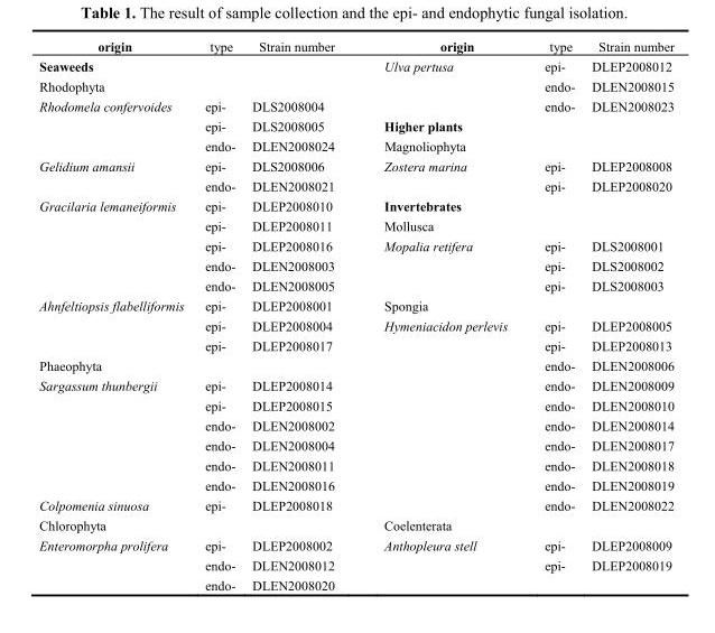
<table><thead><tr><td>origin</td><td>type</td><td>Strain number</td><td>origin</td><td>type</td><td>Strain number</td></tr></thead><tbody><tr><td>Seaweeds</td><td></td><td></td><td>Ulva pertusa</td><td>epi-</td><td>DLEP2008012</td></tr><tr><td>Rhodophyta</td><td></td><td></td><td></td><td>endo-</td><td>DLEN2008015</td></tr><tr><td rowspan="3">Rhodomela confervoides</td><td>epi-</td><td>DLS2008004</td><td></td><td>endo-</td><td>DLEN2008023</td></tr><tr><td>epi-</td><td>DLS2008005</td><td>Higher plants</td><td></td><td></td></tr><tr><td>endo-</td><td>DLEN2008024</td><td>Magnoliophyta</td><td></td><td></td></tr><tr><td rowspan="2">Gelidium amansii</td><td>epi-</td><td>DLS2008006</td><td>Zostera marina</td><td>epi-</td><td>DLEP2008008</td></tr><tr><td>endo-</td><td>DLEN2008021</td><td></td><td>epi-</td><td>DLEP2008020</td></tr><tr><td rowspan="5">Gracilaria lemaneiformis</td><td>epi-</td><td>DLEP2008010</td><td>Invertebrates</td><td></td><td></td></tr><tr><td>epi-</td><td>DLEP2008011</td><td>Mollusca</td><td></td><td></td></tr><tr><td>epi-</td><td>DLEP2008016</td><td>Mopalia retifera</td><td>epi-</td><td>DLS2008001</td></tr><tr><td>endo-</td><td>DLEN2008003</td><td></td><td>epi-</td><td>DLS2008002</td></tr><tr><td>endo-</td><td>DLEN2008005</td><td></td><td>epi-</td><td>DLS2008003</td></tr><tr><td rowspan="3">Ahnfeltiopsis flabelliformis</td><td>epi-</td><td>DLEP2008001</td><td>Spongia</td><td></td><td></td></tr><tr><td>epi-</td><td>DLEP2008004</td><td>Hymeniacidon perlevis</td><td>epi-</td><td>DLEP2008005</td></tr><tr><td>epi-</td><td>DLEP2008017</td><td></td><td>epi-</td><td>DLEP2008013</td></tr><tr><td>Phaeophyta</td><td></td><td></td><td></td><td>endo-</td><td>DLEN2008006</td></tr><tr><td rowspan="6">Sargassum thunbergii</td><td>epi-</td><td>DLEP2008014</td><td></td><td>endo-</td><td>DLEN2008009</td></tr><tr><td>epi-</td><td>DLEP2008015</td><td></td><td>endo-</td><td>DLEN2008010</td></tr><tr><td>endo-</td><td>DLEN2008002</td><td></td><td>endo-</td><td>DLEN2008014</td></tr><tr><td>endo-</td><td>DLEN2008004</td><td></td><td>endo-</td><td>DLEN2008017</td></tr><tr><td>endo-</td><td>DLEN2008011</td><td></td><td>endo-</td><td>DLEN2008018</td></tr><tr><td>endo-</td><td>DLEN2008016</td><td></td><td>endo-</td><td>DLEN2008019</td></tr><tr><td>Colpomenia sinuosa</td><td>epi-</td><td>DLEP2008018</td><td></td><td>endo-</td><td>DLEN2008022</td></tr><tr><td>Chlorophyta</td><td></td><td></td><td>Coelenterata</td><td></td><td></td></tr><tr><td rowspan="3">Enteromorpha prolifera</td><td>epi-</td><td>DLEP2008002</td><td>Anthopleura stell</td><td>epi-</td><td>DLEP2008009</td></tr><tr><td>endo-</td><td>DLEN2008012</td><td></td><td>epi-</td><td>DLEP2008019</td></tr><tr><td>endo-</td><td>DLEN2008020</td><td></td><td></td><td></td></tr></tbody></table>